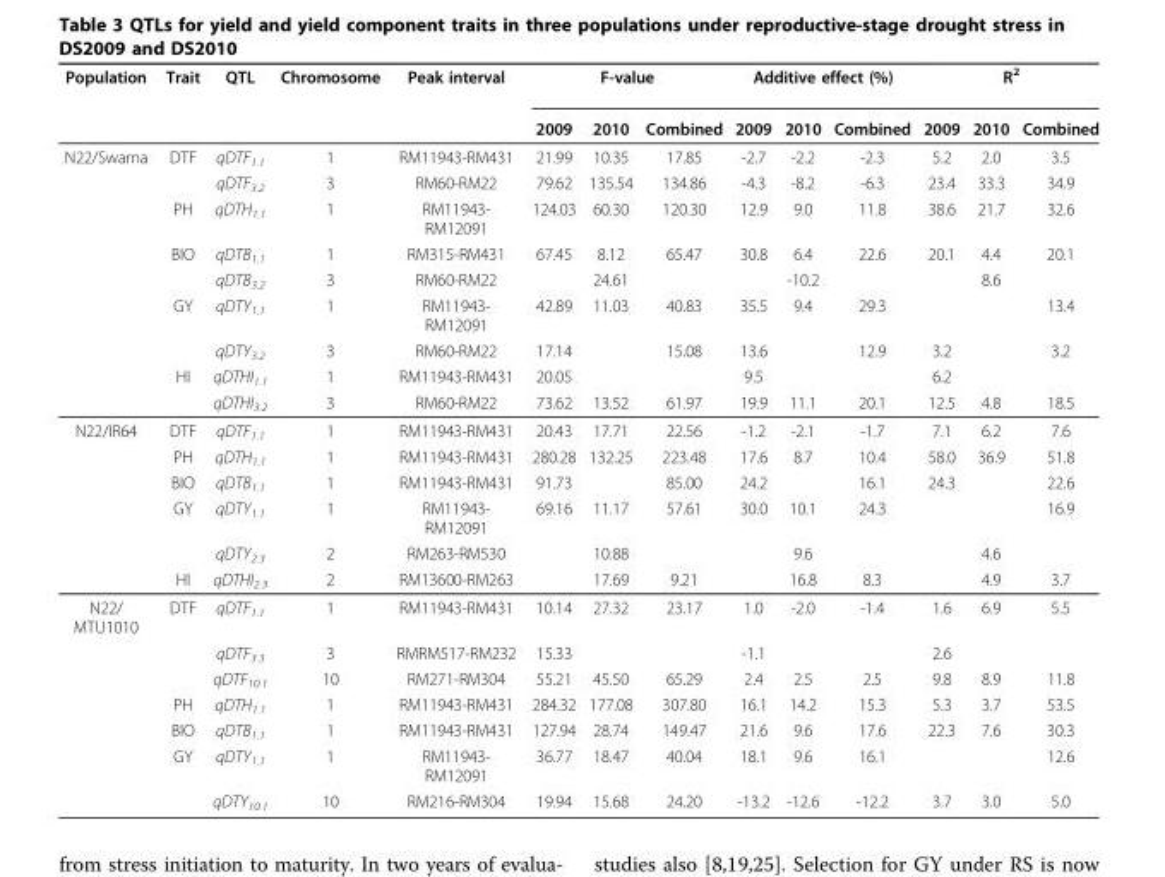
<table><thead><tr><td rowspan="2">Population</td><td rowspan="2">Trait</td><td rowspan="2">QTL</td><td rowspan="2">Chromosome</td><td rowspan="2">Peak interval</td><td colspan="3">F-value</td><td colspan="3">Additive effect (%)</td><td colspan="3">R<sup>2</sup></td></tr><tr><td>2009</td><td>2010</td><td>Combined</td><td>2009</td><td>2010</td><td>Combined</td><td>2009</td><td>2010</td><td>Combined</td></tr></thead><tbody><tr><td rowspan="9">N22/Swarna</td><td>DTF</td><td>qDTF<sub>1.1</sub></td><td>1</td><td>RM11943-RM431</td><td>21.99</td><td>10.35</td><td>17.85</td><td>-2.7</td><td>-2.2</td><td>-2.3</td><td>5.2</td><td>2.0</td><td>3.5</td></tr><tr><td></td><td>qDTF<sub>3.2</sub></td><td>3</td><td>RM60-RM22</td><td>79.62</td><td>135.54</td><td>134.86</td><td>-4.3</td><td>-8.2</td><td>-6.3</td><td>23.4</td><td>33.3</td><td>34.9</td></tr><tr><td>PH</td><td>qDTH<sub>1.1</sub></td><td>1</td><td>RM11943- RM12091</td><td>124.03</td><td>60.30</td><td>120.30</td><td>12.9</td><td>9.0</td><td>11.8</td><td>38.6</td><td>21.7</td><td>32.6</td></tr><tr><td>BIO</td><td>qDTB<sub>1.1</sub></td><td>1</td><td>RM315-RM431</td><td>67.45</td><td>8.12</td><td>65.47</td><td>30.8</td><td>6.4</td><td>22.6</td><td>20.1</td><td>4.4</td><td>20.1</td></tr><tr><td></td><td>qDTB<sub>3.2</sub></td><td>3</td><td>RM60-RM22</td><td></td><td>24.61</td><td></td><td></td><td>-10.2</td><td></td><td></td><td>8.6</td><td></td></tr><tr><td>GY</td><td>qDTY<sub>1.1</sub></td><td>1</td><td>RM11943- RM12091</td><td>42.89</td><td>11.03</td><td>40.83</td><td>35.5</td><td>9.4</td><td>29.3</td><td></td><td></td><td>13.4</td></tr><tr><td></td><td>qDTY<sub>3.2</sub></td><td>3</td><td>RM60-RM22</td><td>17.14</td><td></td><td>15.08</td><td>13.6</td><td></td><td>12.9</td><td>3.2</td><td></td><td>3.2</td></tr><tr><td>HI</td><td>qDTHI<sub>1.1</sub></td><td>1</td><td>RM11943-RM431</td><td>20.05</td><td></td><td></td><td>9.5</td><td></td><td></td><td>6.2</td><td></td><td></td></tr><tr><td></td><td>qDTHI<sub>3.2</sub></td><td>3</td><td>RM60-RM22</td><td>73.62</td><td>13.52</td><td>61.97</td><td>19.9</td><td>11.1</td><td>20.1</td><td>12.5</td><td>4.8</td><td>18.5</td></tr><tr><td rowspan="6">N22/IR64</td><td>DTF</td><td>qDTF<sub>1.1</sub></td><td>1</td><td>RM11943-RM431</td><td>20.43</td><td>17.71</td><td>22.56</td><td>-1.2</td><td>-2.1</td><td>-1.7</td><td>7.1</td><td>6.2</td><td>7.6</td></tr><tr><td>PH</td><td>qDTH<sub>1.1</sub></td><td>1</td><td>RM11943-RM431</td><td>280.28</td><td>132.25</td><td>223.48</td><td>17.6</td><td>8.7</td><td>10.4</td><td>58.0</td><td>36.9</td><td>51.8</td></tr><tr><td>BIO</td><td>qDTB<sub>1.1</sub></td><td>1</td><td>RM11943-RM431</td><td>91.73</td><td></td><td>85.00</td><td>24.2</td><td></td><td>16.1</td><td>24.3</td><td></td><td>22.6</td></tr><tr><td>GY</td><td>qDTY<sub>1.1</sub></td><td>1</td><td>RM11943- RM12091</td><td>69.16</td><td>11.17</td><td>57.61</td><td>30.0</td><td>10.1</td><td>24.3</td><td></td><td></td><td>16.9</td></tr><tr><td></td><td>qDTY<sub>2.3</sub></td><td>2</td><td>RM263-RM530</td><td></td><td>10.88</td><td></td><td></td><td>9.6</td><td></td><td></td><td>4.6</td><td></td></tr><tr><td>HI</td><td>qDTHI<sub>2.3</sub></td><td>2</td><td>RM13600-RM263</td><td></td><td>17.69</td><td>9.21</td><td></td><td>16.8</td><td>8.3</td><td></td><td>4.9</td><td>3.7</td></tr><tr><td rowspan="7">N22/ MTU1010</td><td>DTF</td><td>qDTF<sub>1.1</sub></td><td>1</td><td>RM11943-RM431</td><td>10.14</td><td>27.32</td><td>23.17</td><td>1.0</td><td>-2.0</td><td>-1.4</td><td>1.6</td><td>6.9</td><td>5.5</td></tr><tr><td></td><td>qDTF<sub>3.3</sub></td><td>3</td><td>RMRM517-RM232</td><td>15.33</td><td></td><td></td><td>-1.1</td><td></td><td></td><td>2.6</td><td></td><td></td></tr><tr><td></td><td>qDTF<sub>10.1</sub></td><td>10</td><td>RM271-RM304</td><td>55.21</td><td>45.50</td><td>65.29</td><td>2.4</td><td>2.5</td><td>2.5</td><td>9.8</td><td>8.9</td><td>11.8</td></tr><tr><td>PH</td><td>qDTH<sub>1.1</sub></td><td>1</td><td>RM11943-RM431</td><td>284.32</td><td>177.08</td><td>307.80</td><td>16.1</td><td>14.2</td><td>15.3</td><td>5.3</td><td>3.7</td><td>53.5</td></tr><tr><td>BIO</td><td>qDTB<sub>1.1</sub></td><td>1</td><td>RM11943-RM431</td><td>127.94</td><td>28.74</td><td>149.47</td><td>21.6</td><td>9.6</td><td>17.6</td><td>22.3</td><td>7.6</td><td>30.3</td></tr><tr><td>GY</td><td>qDTY<sub>1.1</sub></td><td>1</td><td>RM11943- RM12091</td><td>36.77</td><td>18.47</td><td>40.04</td><td>18.1</td><td>9.6</td><td>16.1</td><td></td><td></td><td>12.6</td></tr><tr><td></td><td>qDTY<sub>10.1</sub></td><td>10</td><td>RM216-RM304</td><td>19.94</td><td>15.68</td><td>24.20</td><td>-13.2</td><td>-12.6</td><td>-12.2</td><td>3.7</td><td>3.0</td><td>5.0</td></tr></tbody></table>